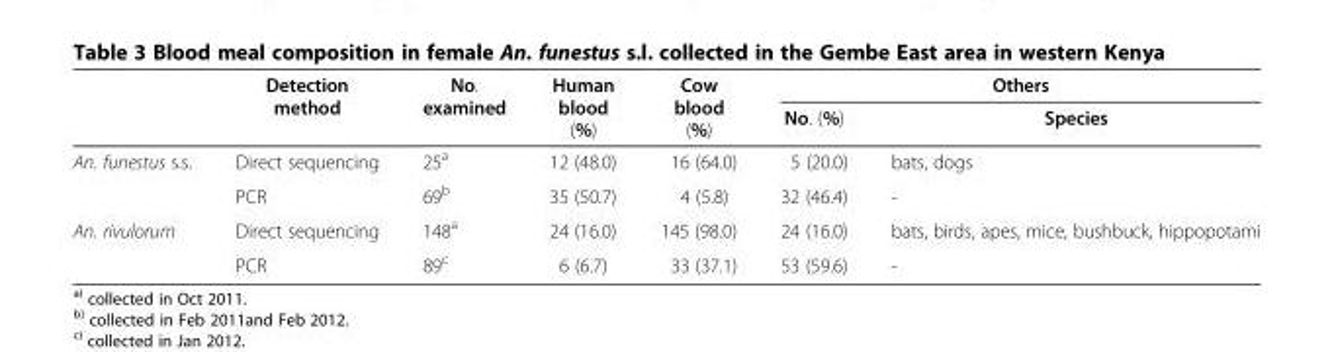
<table><thead><tr><td rowspan="2"></td><td rowspan="2">Detection method</td><td rowspan="2">No. examined</td><td rowspan="2">Human blood (%)</td><td rowspan="2">Cow blood (%)</td><td colspan="2">Others</td></tr><tr><td>No. (%)</td><td>Species</td></tr></thead><tbody><tr><td rowspan="2">An. funestus s.s.</td><td>Direct sequencing</td><td>25<sup>a</sup></td><td>12 (48.0)</td><td>16 (64.0)</td><td>5 (20.0)</td><td>bats, dogs</td></tr><tr><td>PCR</td><td>69<sup>b</sup></td><td>35 (50.7)</td><td>4 (5.8)</td><td>32 (46.4)</td><td>-</td></tr><tr><td rowspan="2">An. rivulorum</td><td>Direct sequencing</td><td>148<sup>a</sup></td><td>24 (16.0)</td><td>145 (98.0)</td><td>24 (16.0)</td><td>bats, birds, apes, mice, bushbuck, hippopotami</td></tr><tr><td>PCR</td><td>89<sup>c</sup></td><td>6 (6.7)</td><td>33 (37.1)</td><td>53 (59.6)</td><td>-</td></tr></tbody></table>